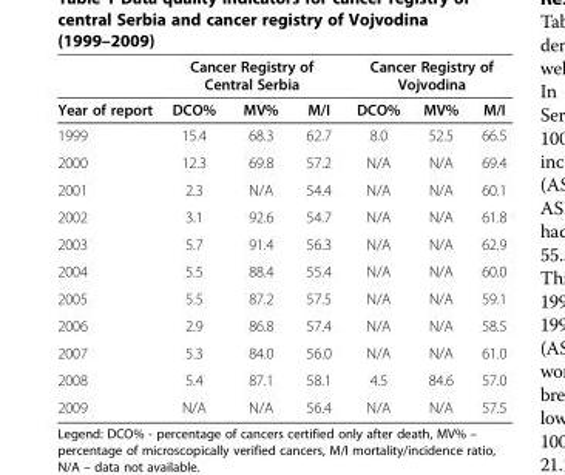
<table><thead><tr><td rowspan="2">Year of report</td><td colspan="3">Cancer Registry of Central Serbia</td><td colspan="3">Cancer Registry of Vojvodina</td></tr><tr><td>DCO%</td><td>MV%</td><td>M/I</td><td>DCO%</td><td>MV%</td><td>M/I</td></tr></thead><tbody><tr><td>1999</td><td>15.4</td><td>68.3</td><td>62.7</td><td>8.0</td><td>52.5</td><td>66.5</td></tr><tr><td>2000</td><td>12.3</td><td>69.8</td><td>57.2</td><td>N/A</td><td>N/A</td><td>69.4</td></tr><tr><td>2001</td><td>2.3</td><td>N/A</td><td>54.4</td><td>N/A</td><td>N/A</td><td>60.1</td></tr><tr><td>2002</td><td>3.1</td><td>92.6</td><td>54.7</td><td>N/A</td><td>N/A</td><td>61.8</td></tr><tr><td>2003</td><td>5.7</td><td>91.4</td><td>56.3</td><td>N/A</td><td>N/A</td><td>62.9</td></tr><tr><td>2004</td><td>5.5</td><td>88.4</td><td>55.4</td><td>N/A</td><td>N/A</td><td>60.0</td></tr><tr><td>2005</td><td>5.5</td><td>87.2</td><td>57.5</td><td>N/A</td><td>N/A</td><td>59.1</td></tr><tr><td>2006</td><td>2.9</td><td>86.8</td><td>57.4</td><td>N/A</td><td>N/A</td><td>58.5</td></tr><tr><td>2007</td><td>5.3</td><td>84.0</td><td>56.0</td><td>N/A</td><td>N/A</td><td>61.0</td></tr><tr><td>2008</td><td>5.4</td><td>87.1</td><td>58.1</td><td>4.5</td><td>84.6</td><td>57.0</td></tr><tr><td>2009</td><td>N/A</td><td>N/A</td><td>56.4</td><td>N/A</td><td>N/A</td><td>57.5</td></tr></tbody></table>